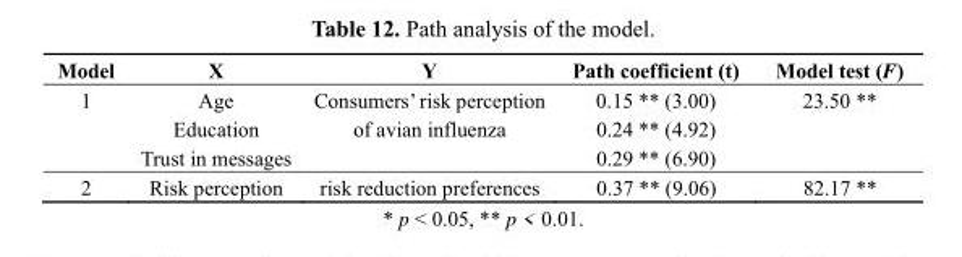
<table><thead><tr><td>Model</td><td>X</td><td>Y</td><td>Path coefficient (t)</td><td>Model test (F)</td></tr></thead><tbody><tr><td rowspan="3">1</td><td>Age</td><td>Consumers’ risk perception</td><td>0.15 ** (3.00)</td><td rowspan="3">23.50 **</td></tr><tr><td>Education</td><td>of avian influenza</td><td>0.24 ** (4.92)</td></tr><tr><td>Trust in messages</td><td></td><td>0.29 ** (6.90)</td></tr><tr><td>2</td><td>Risk perception</td><td>risk reduction preferences</td><td>0.37 ** (9.06)</td><td>82.17 **</td></tr></tbody></table>